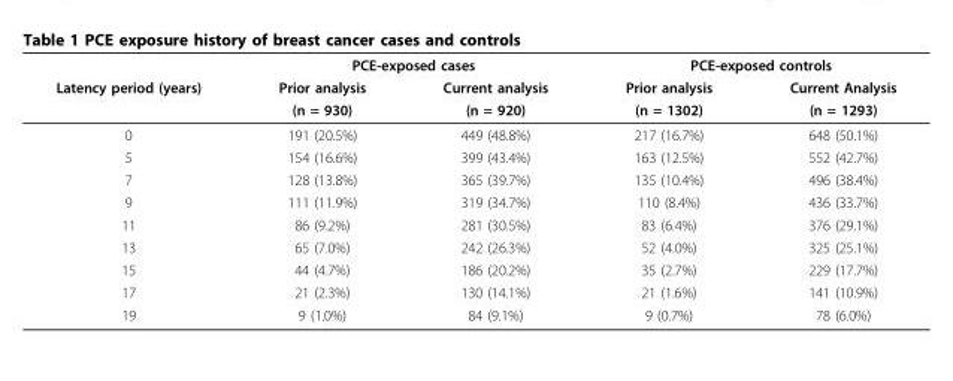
<table><thead><tr><td rowspan="3">Latency period (years)</td><td colspan="2">PCE-exposed cases</td><td colspan="2">PCE-exposed controls</td></tr><tr><td rowspan="2">Prior analysis (n = 930)</td><td rowspan="2">Current analysis (n = 920)</td><td rowspan="2">Prior analysis (n = 1302)</td><td rowspan="2">Current Analysis (n = 1293)</td></tr><tr></tr></thead><tbody><tr><td>0</td><td>191 (20.5%)</td><td>449 (48.8%)</td><td>217 (16.7%)</td><td>648 (50.1%)</td></tr><tr><td>5</td><td>154 (16.6%)</td><td>399 (43.4%)</td><td>163 (12.5%)</td><td>552 (42.7%)</td></tr><tr><td>7</td><td>128 (13.8%)</td><td>365 (39.7%)</td><td>135 (10.4%)</td><td>496 (38.4%)</td></tr><tr><td>9</td><td>111 (11.9%)</td><td>319 (34.7%)</td><td>110 (8.4%)</td><td>436 (33.7%)</td></tr><tr><td>11</td><td>86 (9.2%)</td><td>281 (30.5%)</td><td>83 (6.4%)</td><td>376 (29.1%)</td></tr><tr><td>13</td><td>65 (7.0%)</td><td>242 (26.3%)</td><td>52 (4.0%)</td><td>325 (25.1%)</td></tr><tr><td>15</td><td>44 (4.7%)</td><td>186 (20.2%)</td><td>35 (2.7%)</td><td>229 (17.7%)</td></tr><tr><td>17</td><td>21 (2.3%)</td><td>130 (14.1%)</td><td>21 (1.6%)</td><td>141 (10.9%)</td></tr><tr><td>19</td><td>9 (1.0%)</td><td>84 (9.1%)</td><td>9 (0.7%)</td><td>78 (6.0%)</td></tr></tbody></table>